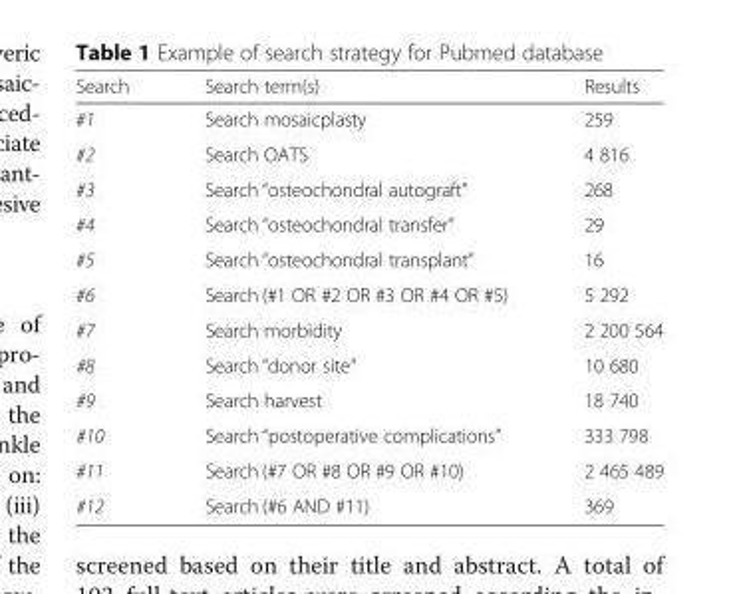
<table><thead><tr><td>Search</td><td>Search term(s)</td><td>Results</td></tr></thead><tbody><tr><td>#1</td><td>Search mosaicplasty</td><td>259</td></tr><tr><td>#2</td><td>Search OATS</td><td>4 816</td></tr><tr><td>#3</td><td>Search “osteochondral autograft”</td><td>268</td></tr><tr><td>#4</td><td>Search “osteochondral transfer”</td><td>29</td></tr><tr><td>#5</td><td>Search “osteochondral transplant”</td><td>16</td></tr><tr><td>#6</td><td>Search (#1 OR #2 OR #3 OR #4 OR #5)</td><td>5 292</td></tr><tr><td>#7</td><td>Search morbidity</td><td>2 200 564</td></tr><tr><td>#8</td><td>Search “donor site”</td><td>10 680</td></tr><tr><td>#9</td><td>Search harvest</td><td>18 740</td></tr><tr><td>#10</td><td>Search “postoperative complications”</td><td>333 798</td></tr><tr><td>#11</td><td>Search (#7 OR #8 OR #9 OR #10)</td><td>2 465 489</td></tr><tr><td>#12</td><td>Search (#6 AND #11)</td><td>369</td></tr></tbody></table>